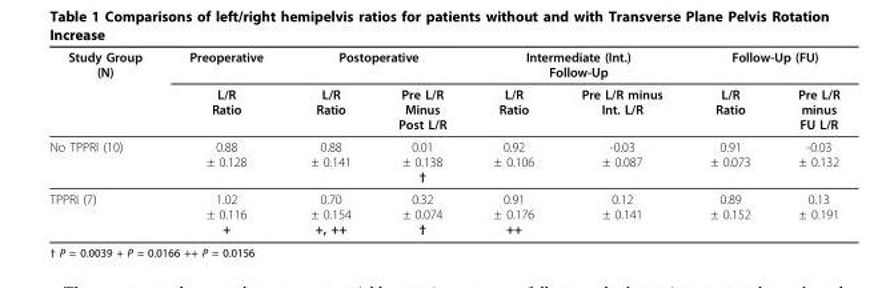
<table><thead><tr><td rowspan="2">Study Group (N)</td><td rowspan="2">Preoperative L/R Ratio</td><td colspan="2">Postoperative</td><td colspan="2">Intermediate (Int.) Follow-Up</td><td colspan="2">Follow-Up (FU)</td></tr><tr><td>L/R Ratio</td><td>Pre L/R Minus Post L/R</td><td>L/R Ratio</td><td>Pre L/R minus Int. L/R</td><td>L/R Ratio</td><td>Pre L/R minus FU L/R</td></tr></thead><tbody><tr><td>No TPPRI (10)</td><td>0.88 ± 0.128</td><td>0.88 ± 0.141</td><td>0.01 ± 0.138 †</td><td>0.92 ± 0.106</td><td>-0.03 ± 0.087</td><td>0.91 ± 0.073</td><td>-0.03 ± 0.132</td></tr><tr><td>TPPRI (7)</td><td>1.02 ± 0.116 +</td><td>0.70 ± 0.154 +, ++</td><td>0.32 ± 0.074 †</td><td>0.91 ± 0.176 ++</td><td>0.12 ± 0.141</td><td>0.89 ± 0.152</td><td>0.13 ± 0.191</td></tr></tbody></table>